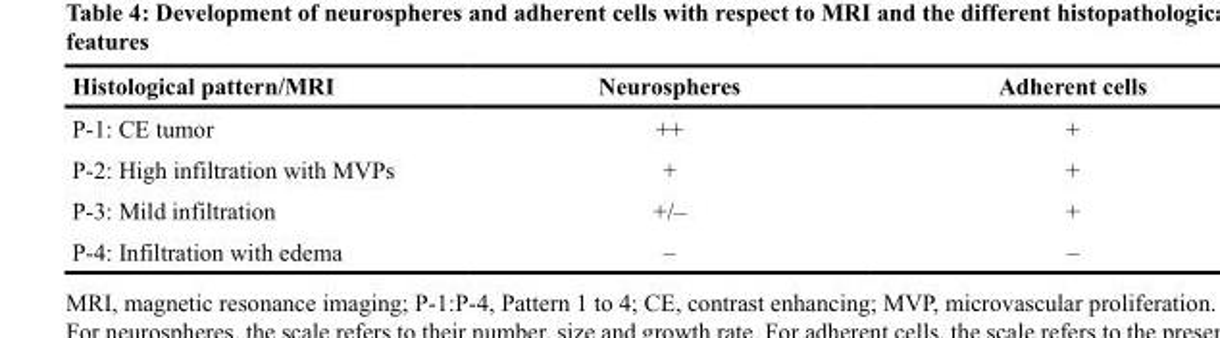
<table><thead><tr><td>Histological pattern/MRI</td><td>Neurospheres</td><td>Adherent cells</td></tr></thead><tbody><tr><td>P-1: CE tumor</td><td>++</td><td>+</td></tr><tr><td>P-2: High infiltration with MVPs</td><td>+</td><td>+</td></tr><tr><td>P-3: Mild infiltration</td><td>+/–</td><td>+</td></tr><tr><td>P-4: Infiltration with edema</td><td>–</td><td>–</td></tr></tbody></table>